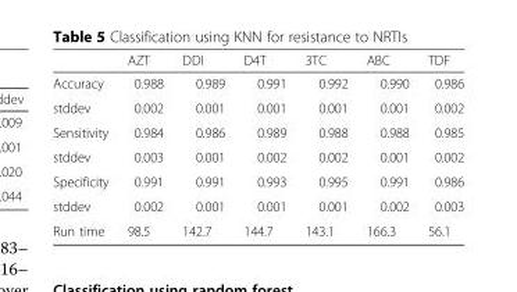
<table><thead><tr><td></td><td>AZT</td><td>DDI</td><td>D4T</td><td>3TC</td><td>ABC</td><td>TDF</td></tr></thead><tbody><tr><td>Accuracy</td><td>0.988</td><td>0.989</td><td>0.991</td><td>0.992</td><td>0.990</td><td>0.986</td></tr><tr><td>stddev</td><td>0.002</td><td>0.001</td><td>0.001</td><td>0.001</td><td>0.001</td><td>0.002</td></tr><tr><td>Sensitivity</td><td>0.984</td><td>0.986</td><td>0.989</td><td>0.988</td><td>0.988</td><td>0.985</td></tr><tr><td>stddev</td><td>0.003</td><td>0.001</td><td>0.002</td><td>0.002</td><td>0.001</td><td>0.002</td></tr><tr><td>Specificity</td><td>0.991</td><td>0.991</td><td>0.993</td><td>0.995</td><td>0.991</td><td>0.986</td></tr><tr><td>stddev</td><td>0.002</td><td>0.001</td><td>0.001</td><td>0.001</td><td>0.002</td><td>0.003</td></tr><tr><td>Run time</td><td>98.5</td><td>142.7</td><td>144.7</td><td>143.1</td><td>166.3</td><td>56.1</td></tr></tbody></table>